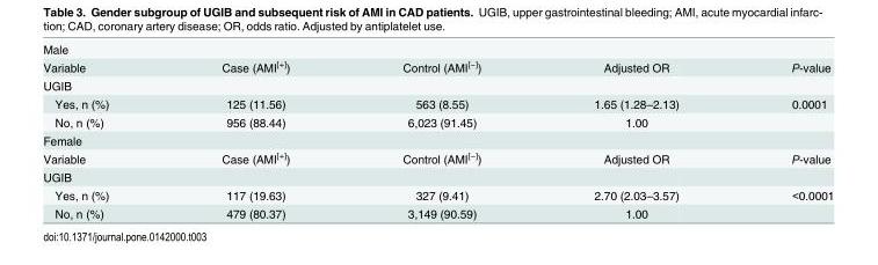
<table><tbody><tr><td colspan="5">Male</td></tr><tr><td>Variable</td><td>Case (AMI<sup>[+]</sup>)</td><td>Control (AMI<sup>[−]</sup>)</td><td>Adjusted OR</td><td>P-value</td></tr><tr><td colspan="5">UGIB</td></tr><tr><td>Yes, n (%)</td><td>125 (11.56)</td><td>563 (8.55)</td><td>1.65 (1.28–2.13)</td><td>0.0001</td></tr><tr><td>No, n (%)</td><td>956 (88.44)</td><td>6,023 (91.45)</td><td>1.00</td><td></td></tr><tr><td colspan="5">Female</td></tr><tr><td>Variable</td><td>Case (AMI<sup>[+]</sup>)</td><td>Control (AMI<sup>[−]</sup>)</td><td>Adjusted OR</td><td>P-value</td></tr><tr><td colspan="5">UGIB</td></tr><tr><td>Yes, n (%)</td><td>117 (19.63)</td><td>327 (9.41)</td><td>2.70 (2.03–3.57)</td><td>&lt;0.0001</td></tr><tr><td>No, n (%)</td><td>479 (80.37)</td><td>3,149 (90.59)</td><td>1.00</td><td></td></tr></tbody></table>